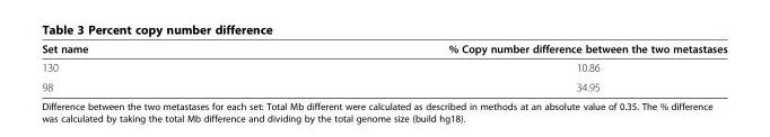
<table><thead><tr><td>Set name</td><td>% Copy number difference between the two metastases</td></tr></thead><tbody><tr><td>130</td><td>10.86</td></tr><tr><td>98</td><td>34.95</td></tr></tbody></table>